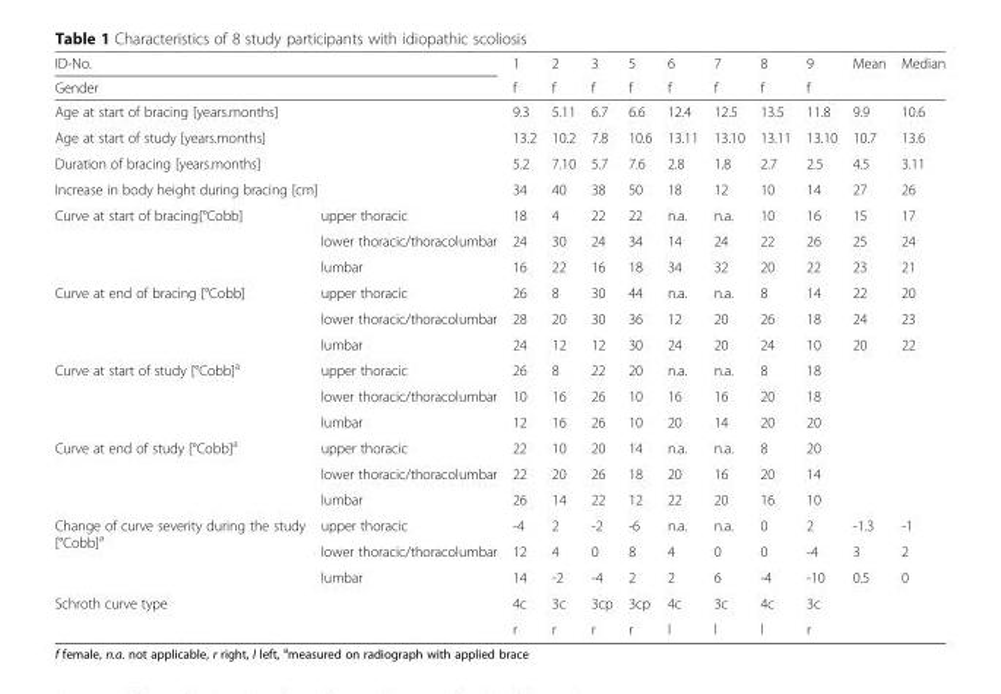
<table><thead><tr><td rowspan="2" colspan="2">ID-No. Gender</td><td rowspan="2">1 f</td><td rowspan="2">2 f</td><td rowspan="2">3 f</td><td rowspan="2">5 f</td><td rowspan="2">6 f</td><td rowspan="2">7 f</td><td rowspan="2">8 f</td><td rowspan="2">9 f</td><td rowspan="2">Mean</td><td rowspan="2">Median</td></tr><tr></tr></thead><tbody><tr><td colspan="2">Age at start of bracing [years.months]</td><td>9.3</td><td>5.11</td><td>6.7</td><td>6.6</td><td>12.4</td><td>12.5</td><td>13.5</td><td>11.8</td><td>9.9</td><td>10.6</td></tr><tr><td colspan="2">Age at start of study [years.months]</td><td>13.2</td><td>10.2</td><td>7.8</td><td>10.6</td><td>13.11</td><td>13.10</td><td>13.11</td><td>13.10</td><td>10.7</td><td>13.6</td></tr><tr><td colspan="2">Duration of bracing [years.months]</td><td>5.2</td><td>7.10</td><td>5.7</td><td>7.6</td><td>2.8</td><td>1.8</td><td>2.7</td><td>2.5</td><td>4.5</td><td>3.11</td></tr><tr><td colspan="2">Increase in body height during bracing [cm]</td><td>34</td><td>40</td><td>38</td><td>50</td><td>18</td><td>12</td><td>10</td><td>14</td><td>27</td><td>26</td></tr><tr><td rowspan="3">Curve at start of bracing[°Cobb]</td><td>upper thoracic</td><td>18</td><td>4</td><td>22</td><td>22</td><td>n.a.</td><td>n.a.</td><td>10</td><td>16</td><td>15</td><td>17</td></tr><tr><td>lower thoracic/thoracolumbar</td><td>24</td><td>30</td><td>24</td><td>34</td><td>14</td><td>24</td><td>22</td><td>26</td><td>25</td><td>24</td></tr><tr><td>lumbar</td><td>16</td><td>22</td><td>16</td><td>18</td><td>34</td><td>32</td><td>20</td><td>22</td><td>23</td><td>21</td></tr><tr><td rowspan="3">Curve at end of bracing [°Cobb]</td><td>upper thoracic</td><td>26</td><td>8</td><td>30</td><td>44</td><td>n.a.</td><td>n.a.</td><td>8</td><td>14</td><td>22</td><td>20</td></tr><tr><td>lower thoracic/thoracolumbar</td><td>28</td><td>20</td><td>30</td><td>36</td><td>12</td><td>20</td><td>26</td><td>18</td><td>24</td><td>23</td></tr><tr><td>lumbar</td><td>24</td><td>12</td><td>12</td><td>30</td><td>24</td><td>20</td><td>24</td><td>10</td><td>20</td><td>22</td></tr><tr><td rowspan="3">Curve at start of study [°Cobb]<sup>a</sup></td><td>upper thoracic</td><td>26</td><td>8</td><td>22</td><td>20</td><td>n.a.</td><td>n.a.</td><td>8</td><td>18</td><td></td><td></td></tr><tr><td>lower thoracic/thoracolumbar</td><td>10</td><td>16</td><td>26</td><td>10</td><td>16</td><td>16</td><td>20</td><td>18</td><td></td><td></td></tr><tr><td>lumbar</td><td>12</td><td>16</td><td>26</td><td>10</td><td>20</td><td>14</td><td>20</td><td>20</td><td></td><td></td></tr><tr><td rowspan="3">Curve at end of study [°Cobb]<sup>a</sup></td><td>upper thoracic</td><td>22</td><td>10</td><td>20</td><td>14</td><td>n.a.</td><td>n.a.</td><td>8</td><td>20</td><td></td><td></td></tr><tr><td>lower thoracic/thoracolumbar</td><td>22</td><td>20</td><td>26</td><td>18</td><td>20</td><td>16</td><td>20</td><td>14</td><td></td><td></td></tr><tr><td>lumbar</td><td>26</td><td>14</td><td>22</td><td>12</td><td>22</td><td>20</td><td>16</td><td>10</td><td></td><td></td></tr><tr><td rowspan="3">Change of curve severity during the study [°Cobb]<sup>a</sup></td><td>upper thoracic</td><td>-4</td><td>2</td><td>-2</td><td>-6</td><td>n.a.</td><td>n.a.</td><td>0</td><td>2</td><td>-1.3</td><td>-1</td></tr><tr><td>lower thoracic/thoracolumbar</td><td>12</td><td>4</td><td>0</td><td>8</td><td>4</td><td>0</td><td>0</td><td>-4</td><td>3</td><td>2</td></tr><tr><td>lumbar</td><td>14</td><td>-2</td><td>-4</td><td>2</td><td>2</td><td>6</td><td>-4</td><td>-10</td><td>0.5</td><td>0</td></tr><tr><td rowspan="2" colspan="2">Schroth curve type</td><td>4c</td><td>3c</td><td>3cp</td><td>3cp</td><td>4c</td><td>3c</td><td>4c</td><td>3c</td><td rowspan="2"></td><td rowspan="2"></td></tr><tr><td>r</td><td>r</td><td>r</td><td>r</td><td>l</td><td>l</td><td>l</td><td>r</td></tr></tbody></table>